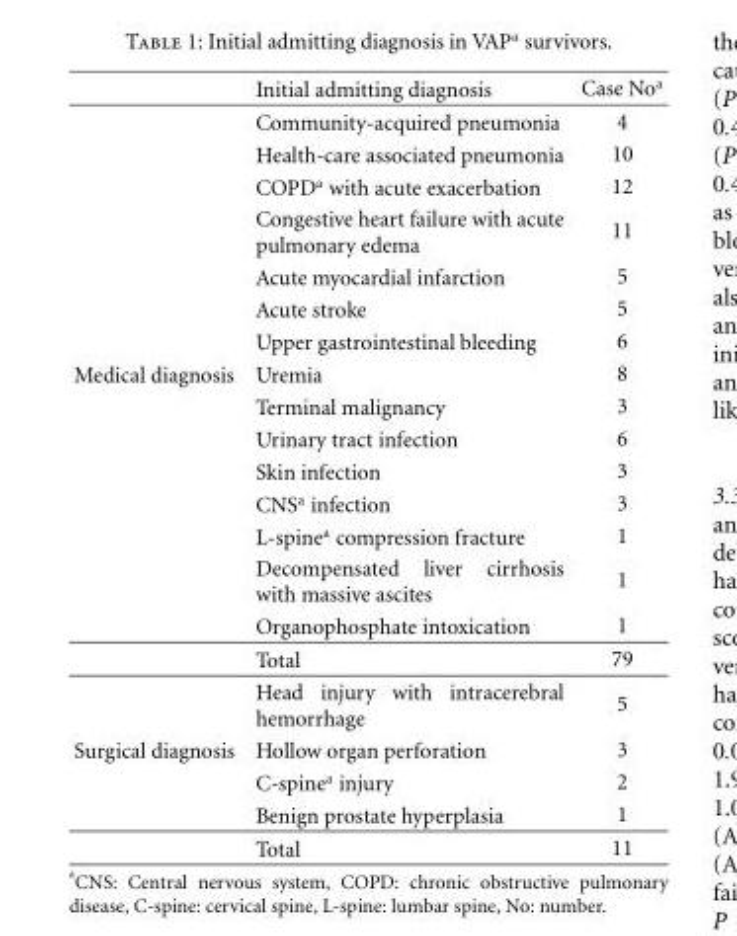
<table><thead><tr><td></td><td>Initial admitting diagnosis</td><td>Case No<sup>a</sup></td></tr></thead><tbody><tr><td></td><td>Community-acquired pneumonia</td><td>4</td></tr><tr><td></td><td>Health-care associated pneumonia</td><td>10</td></tr><tr><td></td><td>COPD<sup>a</sup> with acute exacerbation</td><td>12</td></tr><tr><td></td><td>Congestive heart failure with acute pulmonary edema</td><td>11</td></tr><tr><td></td><td>Acute myocardial infarction</td><td>5</td></tr><tr><td></td><td>Acute stroke</td><td>5</td></tr><tr><td></td><td>Upper gastrointestinal bleeding</td><td>6</td></tr><tr><td rowspan="10">Medical diagnosis</td><td>Uremia</td><td>8</td></tr><tr><td>Terminal malignancy</td><td>3</td></tr><tr><td>Urinary tract infection</td><td>6</td></tr><tr><td>Skin infection</td><td>3</td></tr><tr><td>CNS<sup>a</sup> infection</td><td>3</td></tr><tr><td>L-spine<sup>a</sup> compression fracture</td><td>1</td></tr><tr><td>Decompensated liver cirrhosis with massive ascites</td><td>1</td></tr><tr><td>Organophosphate intoxication</td><td>1</td></tr><tr><td>Total</td><td>79</td></tr><tr><td>Head injury with intracerebral hemorrhage</td><td>5</td></tr><tr><td rowspan="4">Surgical diagnosis</td><td>Hollow organ perforation</td><td>3</td></tr><tr><td>C-spine<sup>a</sup> injury</td><td>2</td></tr><tr><td>Benign prostate hyperplasia</td><td>1</td></tr><tr><td>Total</td><td>11</td></tr></tbody></table>